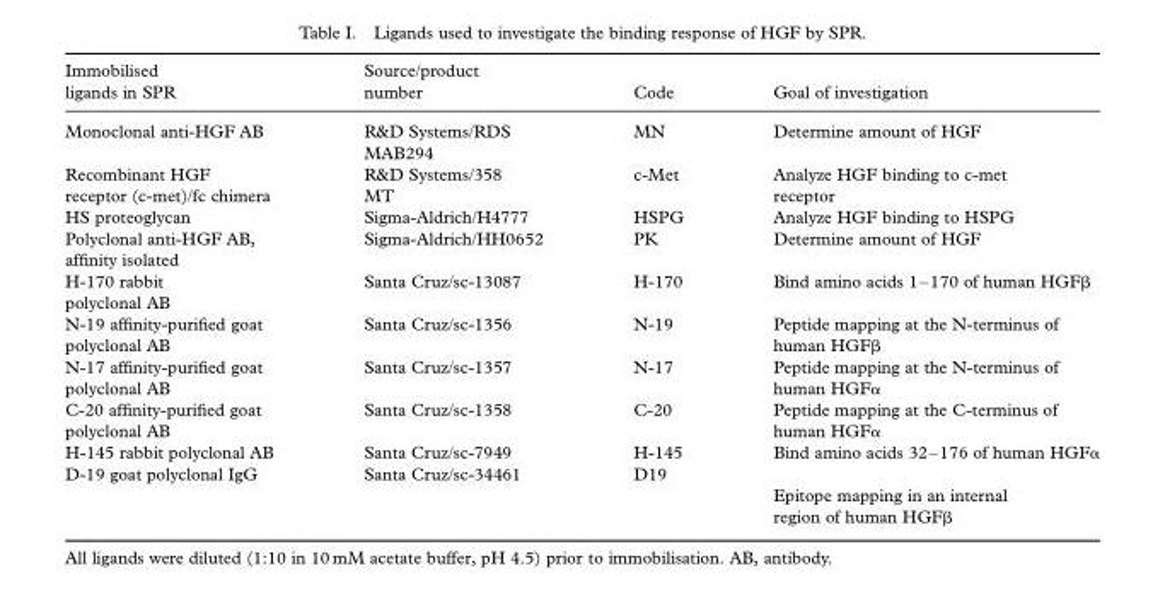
<table><thead><tr><td>Immobilised ligands in SPR</td><td>Source/product number</td><td>Code</td><td>Goal of investigation</td></tr></thead><tbody><tr><td>Monoclonal anti-HGF AB</td><td>R&amp;D Systems/RDS MAB294</td><td>MN</td><td>Determine amount of HGF</td></tr><tr><td>Recombinant HGF receptor (c-met)/fc chimera</td><td>R&amp;D Systems/358 MT</td><td>c-Met</td><td>Analyze HGF binding to c-met receptor</td></tr><tr><td>HS proteoglycan</td><td>Sigma-Aldrich/H4777</td><td>HSPG</td><td>Analyze HGF binding to HSPG</td></tr><tr><td>Polyclonal anti-HGF AB, affinity isolated</td><td>Sigma-Aldrich/HH0652</td><td>PK</td><td>Determine amount of HGF</td></tr><tr><td>H-170 rabbit polyclonal AB</td><td>Santa Cruz/sc-13087</td><td>H-170</td><td>Bind amino acids 1–170 of human HGFβ</td></tr><tr><td>N-19 affinity-purified goat polyclonal AB</td><td>Santa Cruz/sc-1356</td><td>N-19</td><td>Peptide mapping at the N-terminus of human HGFβ</td></tr><tr><td>N-17 affinity-purified goat polyclonal AB</td><td>Santa Cruz/sc-1357</td><td>N-17</td><td>Peptide mapping at the N-terminus of human HGFα</td></tr><tr><td>C-20 affinity-purified goat polyclonal AB</td><td>Santa Cruz/sc-1358</td><td>C-20</td><td>Peptide mapping at the C-terminus of human HGFα</td></tr><tr><td>H-145 rabbit polyclonal AB</td><td>Santa Cruz/sc-7949</td><td>H-145</td><td>Bind amino acids 32–176 of human HGFα</td></tr><tr><td rowspan="2">D-19 goat polyclonal IgG</td><td>Santa Cruz/sc-34461</td><td>D19</td><td></td></tr><tr><td></td><td></td><td>Epitope mapping in an internal region of human HGFβ</td></tr></tbody></table>